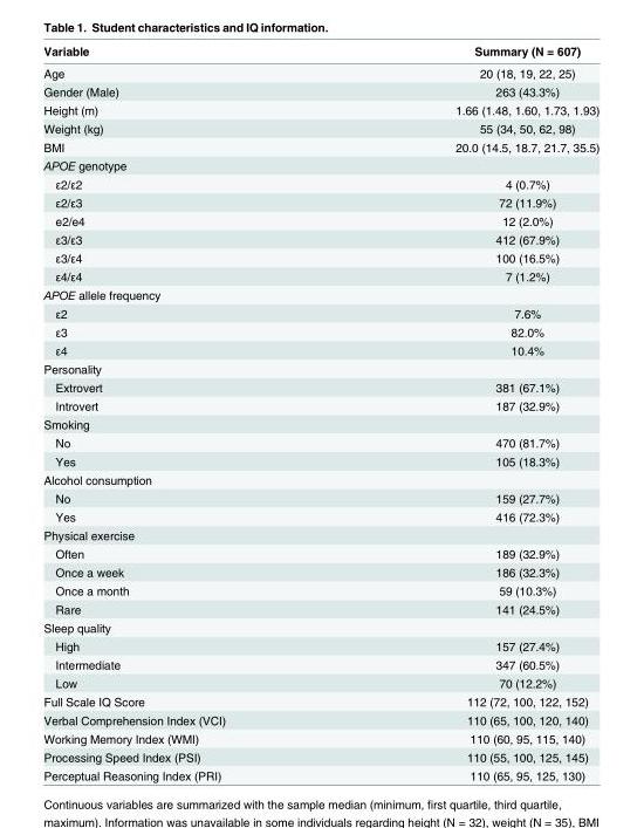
<table><thead><tr><td>Variable</td><td>Summary (N = 607)</td></tr></thead><tbody><tr><td>Age</td><td>20 (18, 19, 22, 25)</td></tr><tr><td>Gender (Male)</td><td>263 (43.3%)</td></tr><tr><td>Height (m)</td><td>1.66 (1.48, 1.60, 1.73, 1.93)</td></tr><tr><td>Weight (kg)</td><td>55 (34, 50, 62, 98)</td></tr><tr><td>BMI</td><td>20.0 (14.5, 18.7, 21.7, 35.5)</td></tr><tr><td colspan="2">APOE genotype</td></tr><tr><td>ε2/ε2</td><td>4 (0.7%)</td></tr><tr><td>ε2/ε3</td><td>72 (11.9%)</td></tr><tr><td>e2/e4</td><td>12 (2.0%)</td></tr><tr><td>ε3/ε3</td><td>412 (67.9%)</td></tr><tr><td>ε3/ε4</td><td>100 (16.5%)</td></tr><tr><td>ε4/ε4</td><td>7 (1.2%)</td></tr><tr><td colspan="2">APOE allele frequency</td></tr><tr><td>ε2</td><td>7.6%</td></tr><tr><td>ε3</td><td>82.0%</td></tr><tr><td>ε4</td><td>10.4%</td></tr><tr><td colspan="2">Personality</td></tr><tr><td>Extrovert</td><td>381 (67.1%)</td></tr><tr><td>Introvert</td><td>187 (32.9%)</td></tr><tr><td colspan="2">Smoking</td></tr><tr><td>No</td><td>470 (81.7%)</td></tr><tr><td>Yes</td><td>105 (18.3%)</td></tr><tr><td colspan="2">Alcohol consumption</td></tr><tr><td>No</td><td>159 (27.7%)</td></tr><tr><td>Yes</td><td>416 (72.3%)</td></tr><tr><td colspan="2">Physical exercise</td></tr><tr><td>Often</td><td>189 (32.9%)</td></tr><tr><td>Once a week</td><td>186 (32.3%)</td></tr><tr><td>Once a month</td><td>59 (10.3%)</td></tr><tr><td>Rare</td><td>141 (24.5%)</td></tr><tr><td colspan="2">Sleep quality</td></tr><tr><td>High</td><td>157 (27.4%)</td></tr><tr><td>Intermediate</td><td>347 (60.5%)</td></tr><tr><td>Low</td><td>70 (12.2%)</td></tr><tr><td>Full Scale IQ Score</td><td>112 (72, 100, 122, 152)</td></tr><tr><td>Verbal Comprehension Index (VCI)</td><td>110 (65, 100, 120, 140)</td></tr><tr><td>Working Memory Index (WMI)</td><td>110 (60, 95, 115, 140)</td></tr><tr><td>Processing Speed Index (PSI)</td><td>110 (55, 100, 125, 145)</td></tr><tr><td>Perceptual Reasoning Index (PRI)</td><td>110 (65, 95, 125, 130)</td></tr></tbody></table>